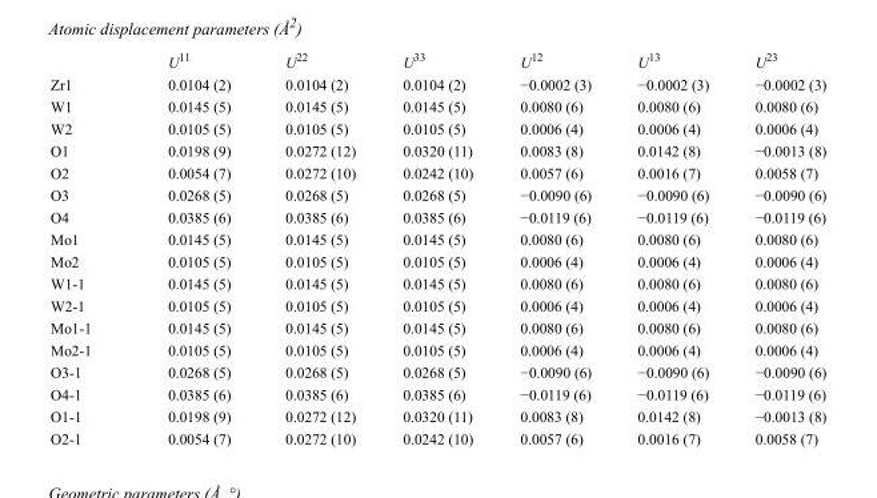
<table><thead><tr><td></td><td>U<sup>11</sup></td><td>U<sup>22</sup></td><td>U<sup>33</sup></td><td>U<sup>12</sup></td><td>U<sup>13</sup></td><td>U<sup>23</sup></td></tr></thead><tbody><tr><td>Zr1</td><td>0.0104 (2)</td><td>0.0104 (2)</td><td>0.0104 (2)</td><td>−0.0002 (3)</td><td>−0.0002 (3)</td><td>−0.0002 (3)</td></tr><tr><td>W1</td><td>0.0145 (5)</td><td>0.0145 (5)</td><td>0.0145 (5)</td><td>0.0080 (6)</td><td>0.0080 (6)</td><td>0.0080 (6)</td></tr><tr><td>W2</td><td>0.0105 (5)</td><td>0.0105 (5)</td><td>0.0105 (5)</td><td>0.0006 (4)</td><td>0.0006 (4)</td><td>0.0006 (4)</td></tr><tr><td>O1</td><td>0.0198 (9)</td><td>0.0272 (12)</td><td>0.0320 (11)</td><td>0.0083 (8)</td><td>0.0142 (8)</td><td>−0.0013 (8)</td></tr><tr><td>O2</td><td>0.0054 (7)</td><td>0.0272 (10)</td><td>0.0242 (10)</td><td>0.0057 (6)</td><td>0.0016 (7)</td><td>0.0058 (7)</td></tr><tr><td>O3</td><td>0.0268 (5)</td><td>0.0268 (5)</td><td>0.0268 (5)</td><td>−0.0090 (6)</td><td>−0.0090 (6)</td><td>−0.0090 (6)</td></tr><tr><td>O4</td><td>0.0385 (6)</td><td>0.0385 (6)</td><td>0.0385 (6)</td><td>−0.0119 (6)</td><td>−0.0119 (6)</td><td>−0.0119 (6)</td></tr><tr><td>Mo1</td><td>0.0145 (5)</td><td>0.0145 (5)</td><td>0.0145 (5)</td><td>0.0080 (6)</td><td>0.0080 (6)</td><td>0.0080 (6)</td></tr><tr><td>Mo2</td><td>0.0105 (5)</td><td>0.0105 (5)</td><td>0.0105 (5)</td><td>0.0006 (4)</td><td>0.0006 (4)</td><td>0.0006 (4)</td></tr><tr><td>W1-1</td><td>0.0145 (5)</td><td>0.0145 (5)</td><td>0.0145 (5)</td><td>0.0080 (6)</td><td>0.0080 (6)</td><td>0.0080 (6)</td></tr><tr><td>W2-1</td><td>0.0105 (5)</td><td>0.0105 (5)</td><td>0.0105 (5)</td><td>0.0006 (4)</td><td>0.0006 (4)</td><td>0.0006 (4)</td></tr><tr><td>Mo1-1</td><td>0.0145 (5)</td><td>0.0145 (5)</td><td>0.0145 (5)</td><td>0.0080 (6)</td><td>0.0080 (6)</td><td>0.0080 (6)</td></tr><tr><td>Mo2-1</td><td>0.0105 (5)</td><td>0.0105 (5)</td><td>0.0105 (5)</td><td>0.0006 (4)</td><td>0.0006 (4)</td><td>0.0006 (4)</td></tr><tr><td>O3-1</td><td>0.0268 (5)</td><td>0.0268 (5)</td><td>0.0268 (5)</td><td>−0.0090 (6)</td><td>−0.0090 (6)</td><td>−0.0090 (6)</td></tr><tr><td>O4-1</td><td>0.0385 (6)</td><td>0.0385 (6)</td><td>0.0385 (6)</td><td>−0.0119 (6)</td><td>−0.0119 (6)</td><td>−0.0119 (6)</td></tr><tr><td>O1-1</td><td>0.0198 (9)</td><td>0.0272 (12)</td><td>0.0320 (11)</td><td>0.0083 (8)</td><td>0.0142 (8)</td><td>−0.0013 (8)</td></tr><tr><td>O2-1</td><td>0.0054 (7)</td><td>0.0272 (10)</td><td>0.0242 (10)</td><td>0.0057 (6)</td><td>0.0016 (7)</td><td>0.0058 (7)</td></tr></tbody></table>